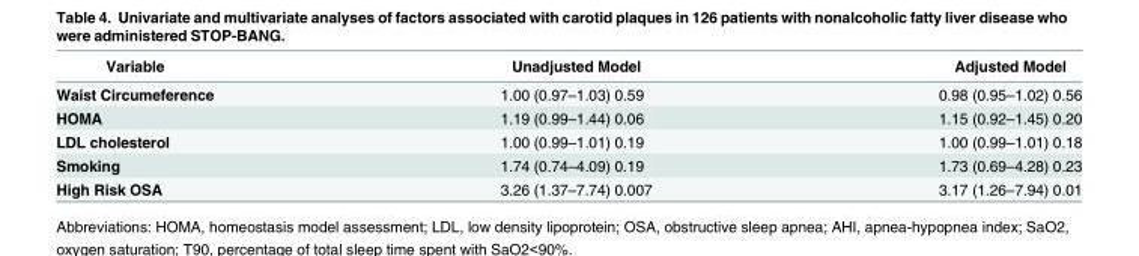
<table><thead><tr><td>Variable</td><td>Unadjusted Model</td><td>Adjusted Model</td></tr></thead><tbody><tr><td>Waist Circumeference</td><td>1.00 (0.97–1.03) 0.59</td><td>0.98 (0.95–1.02) 0.56</td></tr><tr><td>HOMA</td><td>1.19 (0.99–1.44) 0.06</td><td>1.15 (0.92–1.45) 0.20</td></tr><tr><td>LDL cholesterol</td><td>1.00 (0.99–1.01) 0.19</td><td>1.00 (0.99–1.01) 0.18</td></tr><tr><td>Smoking</td><td>1.74 (0.74–4.09) 0.19</td><td>1.73 (0.69–4.28) 0.23</td></tr><tr><td>High Risk OSA</td><td>3.26 (1.37–7.74) 0.007</td><td>3.17 (1.26–7.94) 0.01</td></tr></tbody></table>